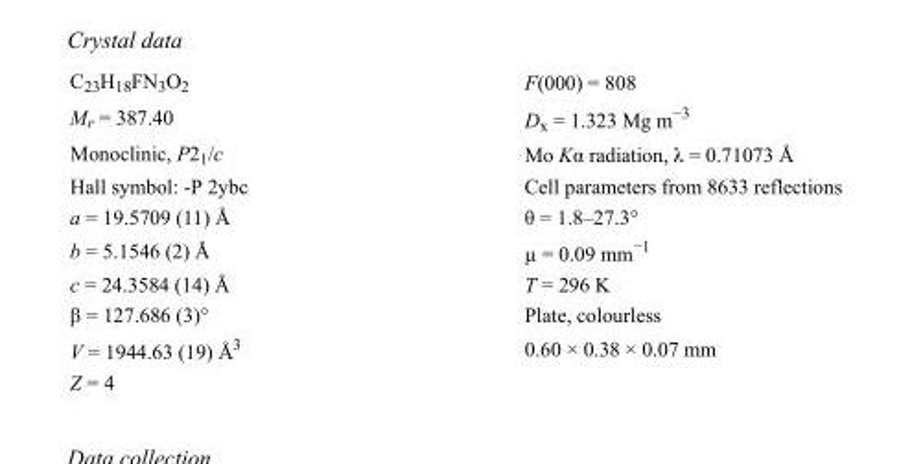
<table><tbody><tr><td>C<sub>23</sub>H<sub>18</sub>FN<sub>3</sub>O<sub>2</sub></td><td>F(000) = 808</td></tr><tr><td>M<sub>r</sub> = 387.40</td><td>D<sub>x</sub> = 1.323 Mg m<sup>−3</sup></td></tr><tr><td>Monoclinic, P2<sub>1</sub>/c</td><td>Mo Kα radiation, λ = 0.71073 Å</td></tr><tr><td>Hall symbol: -P 2ybc</td><td>Cell parameters from 8633 reflections</td></tr><tr><td>a = 19.5709 (11) Å</td><td>θ = 1.8–27.3°</td></tr><tr><td>b = 5.1546 (2) Å</td><td>µ = 0.09 mm<sup>−1</sup></td></tr><tr><td>c = 24.3584 (14) Å</td><td>T = 296 K</td></tr><tr><td>β = 127.686 (3)°</td><td>Plate, colourless</td></tr><tr><td>V = 1944.63 (19) Å<sup>3</sup></td><td>0.60 × 0.38 × 0.07 mm</td></tr><tr><td>Z = 4</td><td></td></tr></tbody></table>